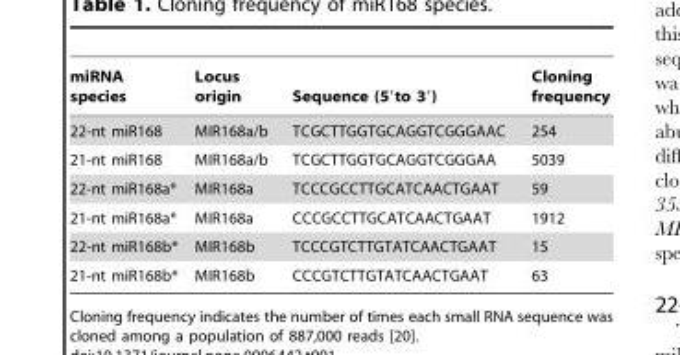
<table><thead><tr><td>miRNA species</td><td>Locus origin</td><td>Sequence (5′to 3′)</td><td>Cloning frequency</td></tr></thead><tbody><tr><td>22-nt miR168</td><td>MIR168a/b</td><td>TCGCTTGGTGCAGGTCGGGAAC</td><td>254</td></tr><tr><td>21-nt miR168</td><td>MIR168a/b</td><td>TCGCTTGGTGCAGGTCGGGAA</td><td>5039</td></tr><tr><td>22-nt miR168a*</td><td>MIR168a</td><td>TCCCGCCTTGCATCAACTGAAT</td><td>59</td></tr><tr><td>21-nt miR168a*</td><td>MIR168a</td><td>CCCGCCTTGCATCAACTGAAT</td><td>1912</td></tr><tr><td>22-nt miR168b*</td><td>MIR168b</td><td>TCCCGTCTTGTATCAACTGAAT</td><td>15</td></tr><tr><td>21-nt miR168b*</td><td>MIR168b</td><td>CCCGTCTTGTATCAACTGAAT</td><td>63</td></tr></tbody></table>